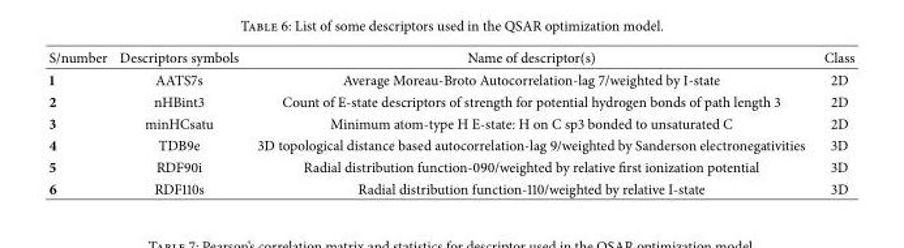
<table><thead><tr><td>S/number</td><td>Descriptors symbols</td><td>Name of descriptor(s)</td><td>Class</td></tr></thead><tbody><tr><td>1</td><td>AATS7s</td><td>Average Moreau-Broto Autocorrelation-lag 7/weighted by I-state</td><td>2D</td></tr><tr><td>2</td><td>nHBint3</td><td>Count of E-state descriptors of strength for potential hydrogen bonds of path length 3</td><td>2D</td></tr><tr><td>3</td><td>minHCsatu</td><td>Minimum atom-type H E-state: H on C sp3 bonded to unsaturated C</td><td>2D</td></tr><tr><td>4</td><td>TDB9e</td><td>3D topological distance based autocorrelation-lag 9/weighted by Sanderson electronegativities</td><td>3D</td></tr><tr><td>5</td><td>RDF90i</td><td>Radial distribution function-090/weighted by relative first ionization potential</td><td>3D</td></tr><tr><td>6</td><td>RDF110s</td><td>Radial distribution function-110/weighted by relative I-state</td><td>3D</td></tr></tbody></table>